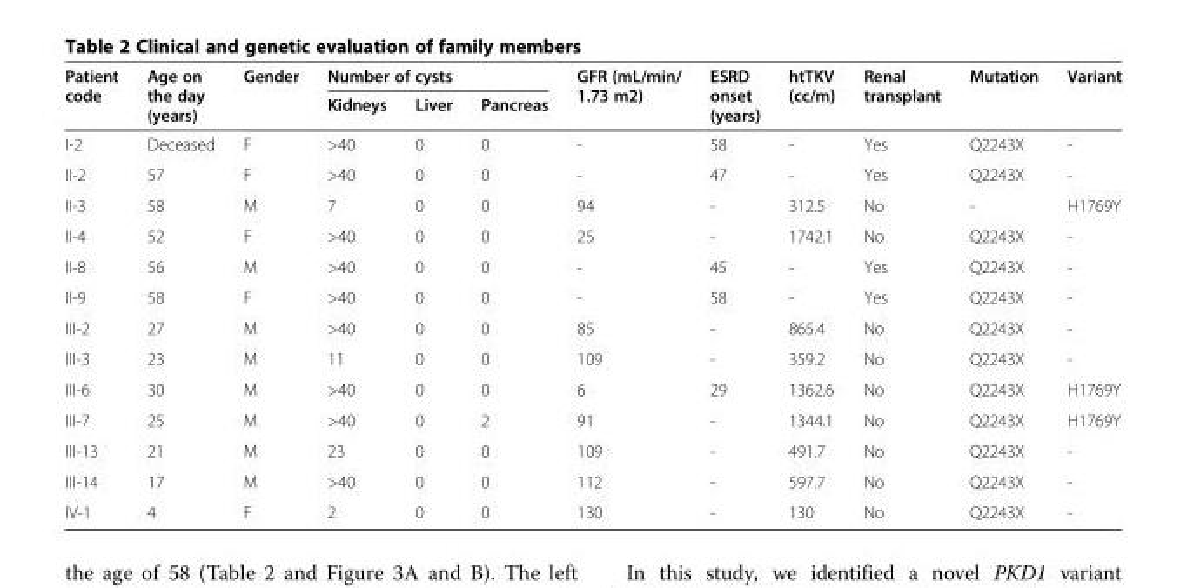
<table><thead><tr><td rowspan="2">Patient code</td><td rowspan="2">Age on the day (years)</td><td rowspan="2">Gender</td><td colspan="3">Number of cysts</td><td rowspan="2">GFR (mL/min/ 1.73 m2)</td><td rowspan="2">ESRD onset (years)</td><td rowspan="2">htTKV (cc/m)</td><td rowspan="2">Renal transplant</td><td rowspan="2">Mutation</td><td rowspan="2">Variant</td></tr><tr><td>Kidneys</td><td>Liver</td><td>Pancreas</td></tr></thead><tbody><tr><td>I-2</td><td>Deceased</td><td>F</td><td>&gt;40</td><td>0</td><td>0</td><td>-</td><td>58</td><td>-</td><td>Yes</td><td>Q2243X</td><td>-</td></tr><tr><td>II-2</td><td>57</td><td>F</td><td>&gt;40</td><td>0</td><td>0</td><td>-</td><td>47</td><td>-</td><td>Yes</td><td>Q2243X</td><td>-</td></tr><tr><td>II-3</td><td>58</td><td>M</td><td>7</td><td>0</td><td>0</td><td>94</td><td>-</td><td>312.5</td><td>No</td><td>-</td><td>H1769Y</td></tr><tr><td>II-4</td><td>52</td><td>F</td><td>&gt;40</td><td>0</td><td>0</td><td>25</td><td>-</td><td>1742.1</td><td>No</td><td>Q2243X</td><td>-</td></tr><tr><td>II-8</td><td>56</td><td>M</td><td>&gt;40</td><td>0</td><td>0</td><td>-</td><td>45</td><td>-</td><td>Yes</td><td>Q2243X</td><td>-</td></tr><tr><td>II-9</td><td>58</td><td>F</td><td>&gt;40</td><td>0</td><td>0</td><td>-</td><td>58</td><td>-</td><td>Yes</td><td>Q2243X</td><td>-</td></tr><tr><td>III-2</td><td>27</td><td>M</td><td>&gt;40</td><td>0</td><td>0</td><td>85</td><td>-</td><td>865.4</td><td>No</td><td>Q2243X</td><td>-</td></tr><tr><td>III-3</td><td>23</td><td>M</td><td>11</td><td>0</td><td>0</td><td>109</td><td>-</td><td>359.2</td><td>No</td><td>Q2243X</td><td>-</td></tr><tr><td>III-6</td><td>30</td><td>M</td><td>&gt;40</td><td>0</td><td>0</td><td>6</td><td>29</td><td>1362.6</td><td>No</td><td>Q2243X</td><td>H1769Y</td></tr><tr><td>III-7</td><td>25</td><td>M</td><td>&gt;40</td><td>0</td><td>2</td><td>91</td><td>-</td><td>1344.1</td><td>No</td><td>Q2243X</td><td>H1769Y</td></tr><tr><td>III-13</td><td>21</td><td>M</td><td>23</td><td>0</td><td>0</td><td>109</td><td>-</td><td>491.7</td><td>No</td><td>Q2243X</td><td>-</td></tr><tr><td>III-14</td><td>17</td><td>M</td><td>&gt;40</td><td>0</td><td>0</td><td>112</td><td>-</td><td>597.7</td><td>No</td><td>Q2243X</td><td>-</td></tr><tr><td>IV-1</td><td>4</td><td>F</td><td>2</td><td>0</td><td>0</td><td>130</td><td>-</td><td>130</td><td>No</td><td>Q2243X</td><td>-</td></tr></tbody></table>